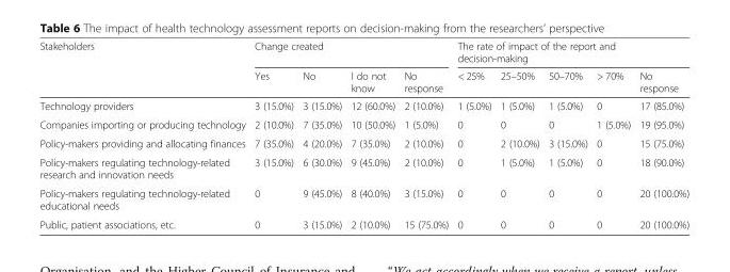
<table><thead><tr><td rowspan="2">Stakeholders</td><td colspan="4">Change created</td><td colspan="5">The rate of impact of the report and decision-making</td></tr><tr><td>Yes</td><td>No</td><td>I do not know</td><td>No response</td><td>&lt; 25%</td><td>25–50%</td><td>50–70%</td><td>&gt; 70%</td><td>No response</td></tr></thead><tbody><tr><td>Technology providers</td><td>3 (15.0%)</td><td>3 (15.0%)</td><td>12 (60.0%)</td><td>2 (10.0%)</td><td>1 (5.0%)</td><td>1 (5.0%)</td><td>1 (5.0%)</td><td>0</td><td>17 (85.0%)</td></tr><tr><td>Companies importing or producing technology</td><td>2 (10.0%)</td><td>7 (35.0%)</td><td>10 (50.0%)</td><td>1 (5.0%)</td><td>0</td><td>0</td><td>0</td><td>1 (5.0%)</td><td>19 (95.0%)</td></tr><tr><td>Policy-makers providing and allocating finances</td><td>7 (35.0%)</td><td>4 (20.0%)</td><td>7 (35.0%)</td><td>2 (10.0%)</td><td>0</td><td>2 (10.0%)</td><td>3 (15.0%)</td><td>0</td><td>15 (75.0%)</td></tr><tr><td>Policy-makers regulating technology-related research and innovation needs</td><td>3 (15.0%)</td><td>6 (30.0%)</td><td>9 (45.0%)</td><td>2 (10.0%)</td><td>0</td><td>1 (5.0%)</td><td>1 (5.0%)</td><td>0</td><td>18 (90.0%)</td></tr><tr><td>Policy-makers regulating technology-related educational needs</td><td>0</td><td>9 (45.0%)</td><td>8 (40.0%)</td><td>3 (15.0%)</td><td>0</td><td>0</td><td>0</td><td>0</td><td>20 (100.0%)</td></tr><tr><td>Public, patient associations, etc.</td><td>0</td><td>3 (15.0%)</td><td>2 (10.0%)</td><td>15 (75.0%)</td><td>0</td><td>0</td><td>0</td><td>0</td><td>20 (100.0%)</td></tr></tbody></table>